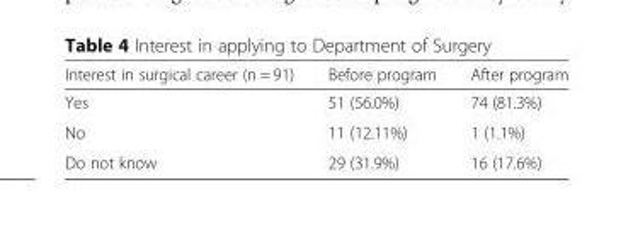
<table><thead><tr><td>Interest in surgical career (n = 91)</td><td>Before program</td><td>After program</td></tr></thead><tbody><tr><td>Yes</td><td>51 (56.0%)</td><td>74 (81.3%)</td></tr><tr><td>No</td><td>11 (12.11%)</td><td>1 (1.1%)</td></tr><tr><td>Do not know</td><td>29 (31.9%)</td><td>16 (17.6%)</td></tr></tbody></table>